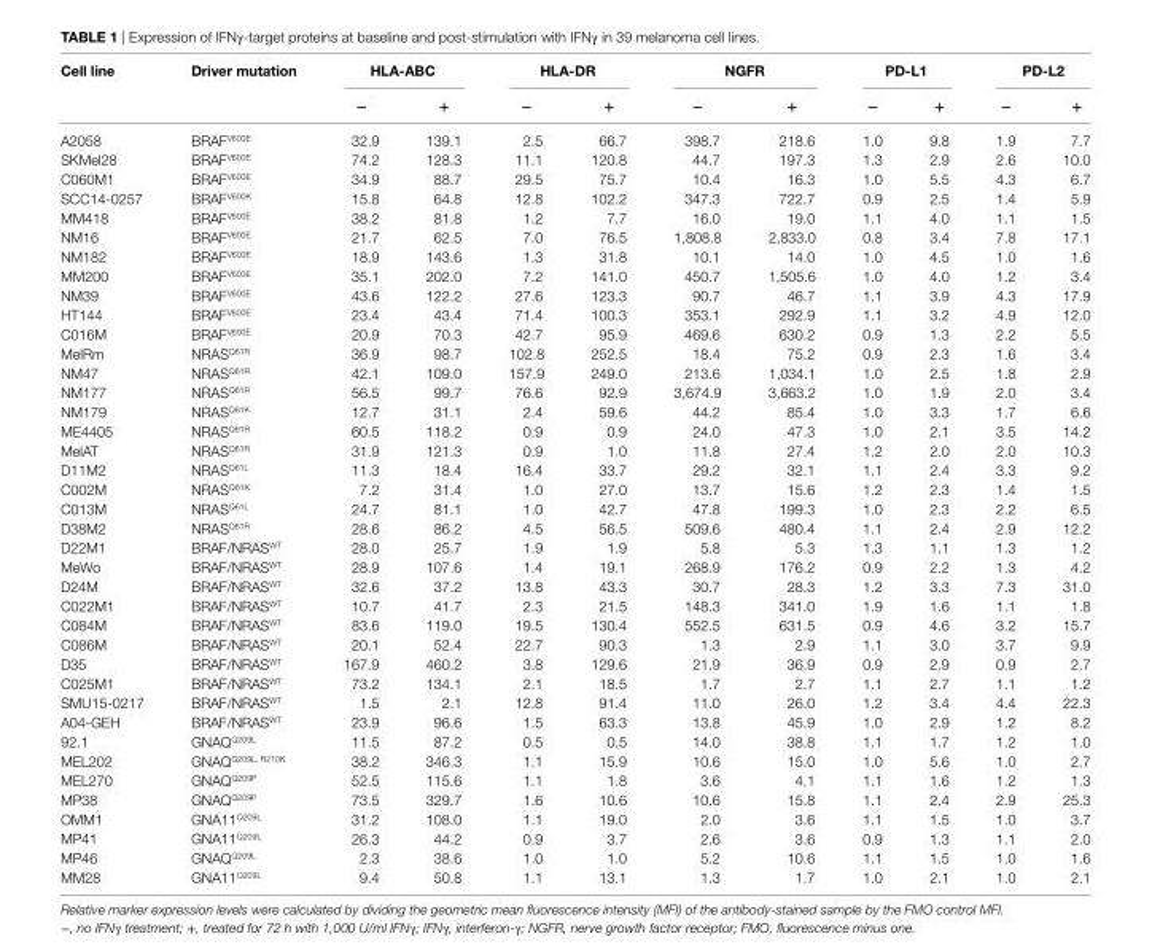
<table><thead><tr><td rowspan="2">cell line</td><td rowspan="2">Driver mutation</td><td colspan="2">hla-aBc</td><td colspan="2">hla-Dr</td><td colspan="2">ngFr</td><td colspan="2">PD-l1</td><td colspan="2">PD-l2</td></tr><tr><td>−</td><td>+</td><td>−</td><td>+</td><td>−</td><td>+</td><td>−</td><td>+</td><td>−</td><td>+</td></tr></thead><tbody><tr><td>A2058</td><td>BRAF<sup>V600E</sup></td><td>32.9</td><td>139.1</td><td>2.5</td><td>66.7</td><td>398.7</td><td>218.6</td><td>1.0</td><td>9.8</td><td>1.9</td><td>7.7</td></tr><tr><td>SKMel28</td><td>BRAF<sup>V600E</sup></td><td>74.2</td><td>128.3</td><td>11.1</td><td>120.8</td><td>44.7</td><td>197.3</td><td>1.3</td><td>2.9</td><td>2.6</td><td>10.0</td></tr><tr><td>C060M1</td><td>BRAF<sup>V600E</sup></td><td>34.9</td><td>88.7</td><td>29.5</td><td>75.7</td><td>10.4</td><td>16.3</td><td>1.0</td><td>5.5</td><td>4.3</td><td>6.7</td></tr><tr><td>SCC14-0257</td><td>BRAF<sup>V600K</sup></td><td>15.8</td><td>64.8</td><td>12.8</td><td>102.2</td><td>347.3</td><td>722.7</td><td>0.9</td><td>2.5</td><td>1.4</td><td>5.9</td></tr><tr><td>MM418</td><td>BRAF<sup>V600E</sup></td><td>38.2</td><td>81.8</td><td>1.2</td><td>7.7</td><td>16.0</td><td>19.0</td><td>1.1</td><td>4.0</td><td>1.1</td><td>1.5</td></tr><tr><td>NM16</td><td>BRAF<sup>V600E</sup></td><td>21.7</td><td>62.5</td><td>7.0</td><td>76.5</td><td>1,808.8</td><td>2,833.0</td><td>0.8</td><td>3.4</td><td>7.8</td><td>17.1</td></tr><tr><td>NM182</td><td>BRAF<sup>V600E</sup></td><td>18.9</td><td>143.6</td><td>1.3</td><td>31.8</td><td>10.1</td><td>14.0</td><td>1.0</td><td>4.5</td><td>1.0</td><td>1.6</td></tr><tr><td>MM200</td><td>BRAF<sup>V600E</sup></td><td>35.1</td><td>202.0</td><td>7.2</td><td>141.0</td><td>450.7</td><td>1,505.6</td><td>1.0</td><td>4.0</td><td>1.2</td><td>3.4</td></tr><tr><td>NM39</td><td>BRAF<sup>V600E</sup></td><td>43.6</td><td>122.2</td><td>27.6</td><td>123.3</td><td>90.7</td><td>46.7</td><td>1.1</td><td>3.9</td><td>4.3</td><td>17.9</td></tr><tr><td>HT144</td><td>BRAF<sup>V600E</sup></td><td>23.4</td><td>43.4</td><td>71.4</td><td>100.3</td><td>353.1</td><td>292.9</td><td>1.1</td><td>3.2</td><td>4.9</td><td>12.0</td></tr><tr><td>C016M</td><td>BRAF<sup>V600E</sup></td><td>20.9</td><td>70.3</td><td>42.7</td><td>95.9</td><td>469.6</td><td>630.2</td><td>0.9</td><td>1.3</td><td>2.2</td><td>5.5</td></tr><tr><td>MelRm</td><td>NRAS<sup>Q61R</sup></td><td>36.9</td><td>98.7</td><td>102.8</td><td>252.5</td><td>18.4</td><td>75.2</td><td>0.9</td><td>2.3</td><td>1.6</td><td>3.4</td></tr><tr><td>NM47</td><td>NRAS<sup>Q61R</sup></td><td>42.1</td><td>109.0</td><td>157.9</td><td>249.0</td><td>213.6</td><td>1,034.1</td><td>1.0</td><td>2.5</td><td>1.8</td><td>2.9</td></tr><tr><td>NM177</td><td>NRAS<sup>Q61R</sup></td><td>56.5</td><td>99.7</td><td>76.6</td><td>92.9</td><td>3,674.9</td><td>3,663.2</td><td>1.0</td><td>1.9</td><td>2.0</td><td>3.4</td></tr><tr><td>NM179</td><td>NRAS<sup>Q61K</sup></td><td>12.7</td><td>31.1</td><td>2.4</td><td>59.6</td><td>44.2</td><td>85.4</td><td>1.0</td><td>3.3</td><td>1.7</td><td>6.6</td></tr><tr><td>ME4405</td><td>NRAS<sup>Q61R</sup></td><td>60.5</td><td>118.2</td><td>0.9</td><td>0.9</td><td>24.0</td><td>47.3</td><td>1.0</td><td>2.1</td><td>3.5</td><td>14.2</td></tr><tr><td>MelAT</td><td>NRAS<sup>Q61R</sup></td><td>31.9</td><td>121.3</td><td>0.9</td><td>1.0</td><td>11.8</td><td>27.4</td><td>1.2</td><td>2.0</td><td>2.0</td><td>10.3</td></tr><tr><td>D11M2</td><td>NRAS<sup>Q61L</sup></td><td>11.3</td><td>18.4</td><td>16.4</td><td>33.7</td><td>29.2</td><td>32.1</td><td>1.1</td><td>2.4</td><td>3.3</td><td>9.2</td></tr><tr><td>C002M</td><td>NRAS<sup>Q61K</sup></td><td>7.2</td><td>31.4</td><td>1.0</td><td>27.0</td><td>13.7</td><td>15.6</td><td>1.2</td><td>2.3</td><td>1.4</td><td>1.5</td></tr><tr><td>C013M</td><td>NRAS<sup>Q61L</sup></td><td>24.7</td><td>81.1</td><td>1.0</td><td>42.7</td><td>47.8</td><td>199.3</td><td>1.0</td><td>2.3</td><td>2.2</td><td>6.5</td></tr><tr><td>D38M2</td><td>NRAS<sup>Q61R</sup></td><td>28.6</td><td>86.2</td><td>4.5</td><td>56.5</td><td>509.6</td><td>480.4</td><td>1.1</td><td>2.4</td><td>2.9</td><td>12.2</td></tr><tr><td>D22M1</td><td>BRAF/NRAS<sup>WT</sup></td><td>28.0</td><td>25.7</td><td>1.9</td><td>1.9</td><td>5.8</td><td>5.3</td><td>1.3</td><td>1.1</td><td>1.3</td><td>1.2</td></tr><tr><td>MeWo</td><td>BRAF/NRAS<sup>WT</sup></td><td>28.9</td><td>107.6</td><td>1.4</td><td>19.1</td><td>268.9</td><td>176.2</td><td>0.9</td><td>2.2</td><td>1.3</td><td>4.2</td></tr><tr><td>D24M</td><td>BRAF/NRAS<sup>WT</sup></td><td>32.6</td><td>37.2</td><td>13.8</td><td>43.3</td><td>30.7</td><td>28.3</td><td>1.2</td><td>3.3</td><td>7.3</td><td>31.0</td></tr><tr><td>C022M1</td><td>BRAF/NRAS<sup>WT</sup></td><td>10.7</td><td>41.7</td><td>2.3</td><td>21.5</td><td>148.3</td><td>341.0</td><td>1.9</td><td>1.6</td><td>1.1</td><td>1.8</td></tr><tr><td>C084M</td><td>BRAF/NRAS<sup>WT</sup></td><td>83.6</td><td>119.0</td><td>19.5</td><td>130.4</td><td>552.5</td><td>631.5</td><td>0.9</td><td>4.6</td><td>3.2</td><td>15.7</td></tr><tr><td>C086M</td><td>BRAF/NRAS<sup>WT</sup></td><td>20.1</td><td>52.4</td><td>22.7</td><td>90.3</td><td>1.3</td><td>2.9</td><td>1.1</td><td>3.0</td><td>3.7</td><td>9.9</td></tr><tr><td>D35</td><td>BRAF/NRAS<sup>WT</sup></td><td>167.9</td><td>460.2</td><td>3.8</td><td>129.6</td><td>21.9</td><td>36.9</td><td>0.9</td><td>2.9</td><td>0.9</td><td>2.7</td></tr><tr><td>C025M1</td><td>BRAF/NRAS<sup>WT</sup></td><td>73.2</td><td>134.1</td><td>2.1</td><td>18.5</td><td>1.7</td><td>2.7</td><td>1.1</td><td>2.7</td><td>1.1</td><td>1.2</td></tr><tr><td>SMU15-0217</td><td>BRAF/NRAS<sup>WT</sup></td><td>1.5</td><td>2.1</td><td>12.8</td><td>91.4</td><td>11.0</td><td>26.0</td><td>1.2</td><td>3.4</td><td>4.4</td><td>22.3</td></tr><tr><td>A04-GEH</td><td>BRAF/NRAS<sup>WT</sup></td><td>23.9</td><td>96.6</td><td>1.5</td><td>63.3</td><td>13.8</td><td>45.9</td><td>1.0</td><td>2.9</td><td>1.2</td><td>8.2</td></tr><tr><td>92.1</td><td>GNAQ<sup>Q209L</sup></td><td>11.5</td><td>87.2</td><td>0.5</td><td>0.5</td><td>14.0</td><td>38.8</td><td>1.1</td><td>1.7</td><td>1.2</td><td>1.0</td></tr><tr><td>MEL202</td><td>GNAQ<sup>Q209L, R210K</sup></td><td>38.2</td><td>346.3</td><td>1.1</td><td>15.9</td><td>10.6</td><td>15.0</td><td>1.0</td><td>5.6</td><td>1.0</td><td>2.7</td></tr><tr><td>MEL270</td><td>GNAQ<sup>Q209P</sup></td><td>52.5</td><td>115.6</td><td>1.1</td><td>1.8</td><td>3.6</td><td>4.1</td><td>1.1</td><td>1.6</td><td>1.2</td><td>1.3</td></tr><tr><td>MP38</td><td>GNAQ<sup>Q209P</sup></td><td>73.5</td><td>329.7</td><td>1.6</td><td>10.6</td><td>10.6</td><td>15.8</td><td>1.1</td><td>2.4</td><td>2.9</td><td>25.3</td></tr><tr><td>OMM1</td><td>GNA11<sup>Q209L</sup></td><td>31.2</td><td>108.0</td><td>1.1</td><td>19.0</td><td>2.0</td><td>3.6</td><td>1.1</td><td>1.5</td><td>1.0</td><td>3.7</td></tr><tr><td>MP41</td><td>GNA11<sup>Q209L</sup></td><td>26.3</td><td>44.2</td><td>0.9</td><td>3.7</td><td>2.6</td><td>3.6</td><td>0.9</td><td>1.3</td><td>1.1</td><td>2.0</td></tr><tr><td>MP46</td><td>GNAQ<sup>Q209L</sup></td><td>2.3</td><td>38.6</td><td>1.0</td><td>1.0</td><td>5.2</td><td>10.6</td><td>1.1</td><td>1.5</td><td>1.0</td><td>1.6</td></tr><tr><td>MM28</td><td>GNA11<sup>Q209L</sup></td><td>9.4</td><td>50.8</td><td>1.1</td><td>13.1</td><td>1.3</td><td>1.7</td><td>1.0</td><td>2.1</td><td>1.0</td><td>2.1</td></tr></tbody></table>